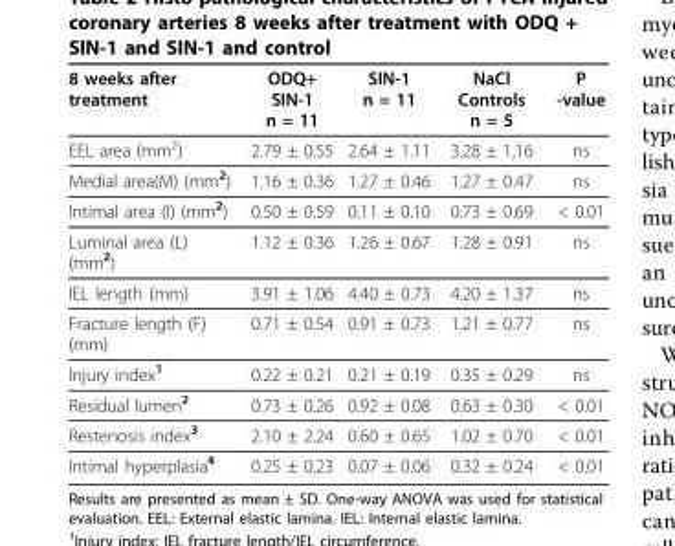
<table><thead><tr><td>8 weeks after treatment</td><td>ODQ+ SIN-1 n = 11</td><td>SIN-1 n = 11</td><td>NaCl Controls n = 5</td><td>P -value</td></tr></thead><tbody><tr><td>EEL area (mm<sup>2</sup>)</td><td>2.79 ± 0.55</td><td>2.64 ± 1.11</td><td>3.28 ± 1,16</td><td>ns</td></tr><tr><td>Medial area(M) (mm<sup>2</sup>)</td><td>1.16 ± 0.36</td><td>1.27 ± 0.46</td><td>1.27 ± 0.47</td><td>ns</td></tr><tr><td>Intimal area (I) (mm<sup>2</sup>)</td><td>0.50 ± 0.59</td><td>0.11 ± 0.10</td><td>0.73 ± 0.69</td><td>&lt; 0.01</td></tr><tr><td>Luminal area (L) (mm<sup>2</sup>)</td><td>1.12 ± 0.36</td><td>1.26 ± 0.67</td><td>1.28 ± 0.91</td><td>ns</td></tr><tr><td>IEL length (mm)</td><td>3.91 ± 1.06</td><td>4.40 ± 0.73</td><td>4.20 ± 1.37</td><td>ns</td></tr><tr><td>Fracture length (F) (mm)</td><td>0.71 ± 0.54</td><td>0.91 ± 0.73</td><td>1.21 ± 0.77</td><td>ns</td></tr><tr><td>Injury index<sup>1</sup></td><td>0.22 ± 0.21</td><td>0.21 ± 0.19</td><td>0.35 ± 0.29</td><td>ns</td></tr><tr><td>Residual lumen<sup>2</sup></td><td>0.73 ± 0.26</td><td>0.92 ± 0.08</td><td>0.63 ± 0.30</td><td>&lt; 0.01</td></tr><tr><td>Restenosis index<sup>3</sup></td><td>2.10 ± 2.24</td><td>0.60 ± 0.65</td><td>1.02 ± 0.70</td><td>&lt; 0.01</td></tr><tr><td>Intimal hyperplasia<sup>4</sup></td><td>0.25 ± 0.23</td><td>0.07 ± 0.06</td><td>0.32 ± 0.24</td><td>&lt; 0.01</td></tr></tbody></table>